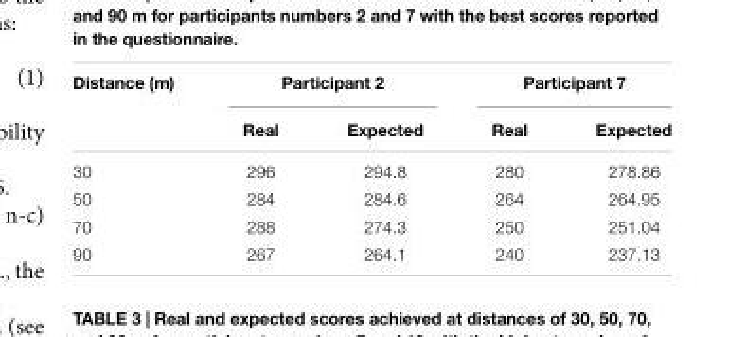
<table><thead><tr><td rowspan="2">Distance (m)</td><td colspan="2">Participant 2</td><td colspan="2">Participant 7</td></tr><tr><td>Real</td><td>Expected</td><td>Real</td><td>Expected</td></tr></thead><tbody><tr><td>30</td><td>296</td><td>294.8</td><td>280</td><td>278.86</td></tr><tr><td>50</td><td>284</td><td>284.6</td><td>264</td><td>264.95</td></tr><tr><td>70</td><td>288</td><td>274.3</td><td>250</td><td>251.04</td></tr><tr><td>90</td><td>267</td><td>264.1</td><td>240</td><td>237.13</td></tr></tbody></table>